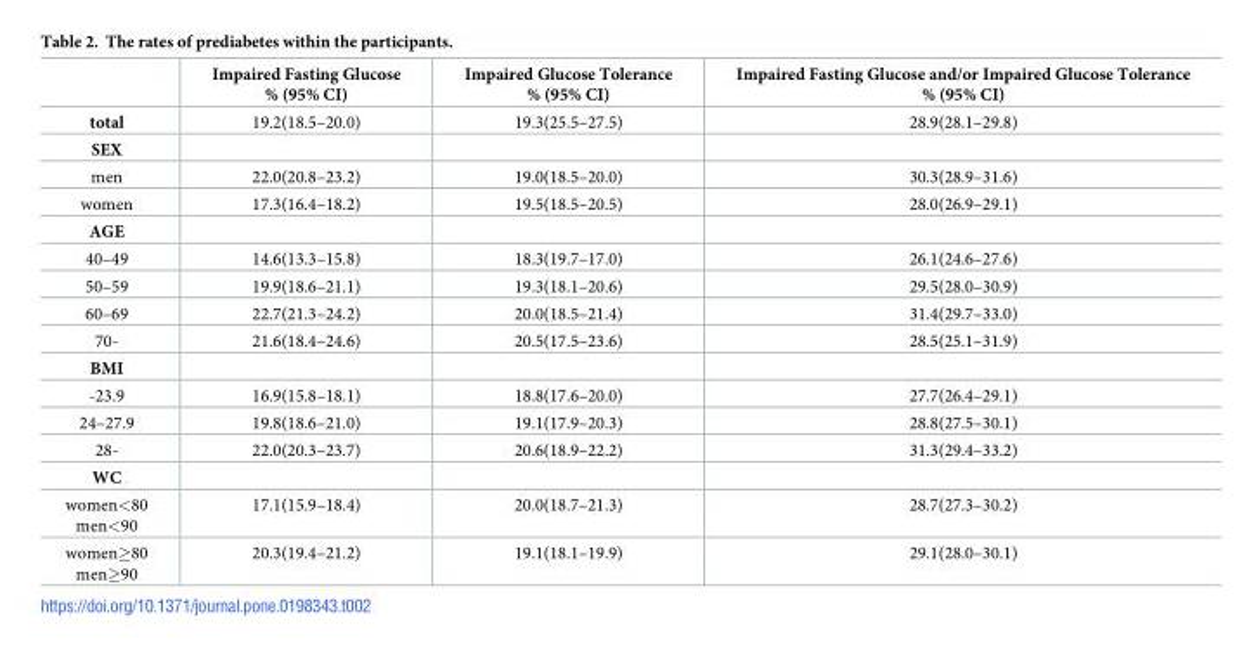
<table><thead><tr><td></td><td>Impaired Fasting Glucose % (95% CI)</td><td>Impaired Glucose Tolerance % (95% CI)</td><td>Impaired Fasting Glucose and/or Impaired Glucose Tolerance % (95% CI)</td></tr></thead><tbody><tr><td>total</td><td>19.2(18.5–20.0)</td><td>19.3(25.5–27.5)</td><td>28.9(28.1–29.8)</td></tr><tr><td colspan="4">SEX</td></tr><tr><td>men</td><td>22.0(20.8–23.2)</td><td>19.0(18.5–20.0)</td><td>30.3(28.9–31.6)</td></tr><tr><td>women</td><td>17.3(16.4–18.2)</td><td>19.5(18.5–20.5)</td><td>28.0(26.9–29.1)</td></tr><tr><td colspan="4">AGE</td></tr><tr><td>40–49</td><td>14.6(13.3–15.8)</td><td>18.3(19.7–17.0)</td><td>26.1(24.6–27.6)</td></tr><tr><td>50–59</td><td>19.9(18.6–21.1)</td><td>19.3(18.1–20.6)</td><td>29.5(28.0–30.9)</td></tr><tr><td>60–69</td><td>22.7(21.3–24.2)</td><td>20.0(18.5–21.4)</td><td>31.4(29.7–33.0)</td></tr><tr><td>70-</td><td>21.6(18.4–24.6)</td><td>20.5(17.5–23.6)</td><td>28.5(25.1–31.9)</td></tr><tr><td colspan="4">BMI</td></tr><tr><td>-23.9</td><td>16.9(15.8–18.1)</td><td>18.8(17.6–20.0)</td><td>27.7(26.4–29.1)</td></tr><tr><td>24–27.9</td><td>19.8(18.6–21.0)</td><td>19.1(17.9–20.3)</td><td>28.8(27.5–30.1)</td></tr><tr><td>28-</td><td>22.0(20.3–23.7)</td><td>20.6(18.9–22.2)</td><td>31.3(29.4–33.2)</td></tr><tr><td colspan="4">WC</td></tr><tr><td>women&lt;80 men&lt;90</td><td>17.1(15.9–18.4)</td><td>20.0(18.7–21.3)</td><td>28.7(27.3–30.2)</td></tr><tr><td>women≥80 men≥90</td><td>20.3(19.4–21.2)</td><td>19.1(18.1–19.9)</td><td>29.1(28.0–30.1)</td></tr></tbody></table>